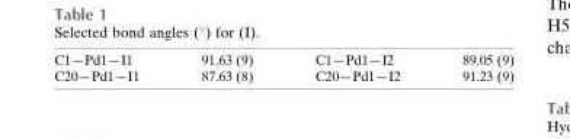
<table><tbody><tr><td>C1—Pd1—I1</td><td>91.63 (9)</td><td>C1—Pd1—I2</td><td>89.05 (9)</td></tr><tr><td>C20—Pd1—I1</td><td>87.63 (8)</td><td>C20—Pd1—I2</td><td>91.23 (9)</td></tr></tbody></table>